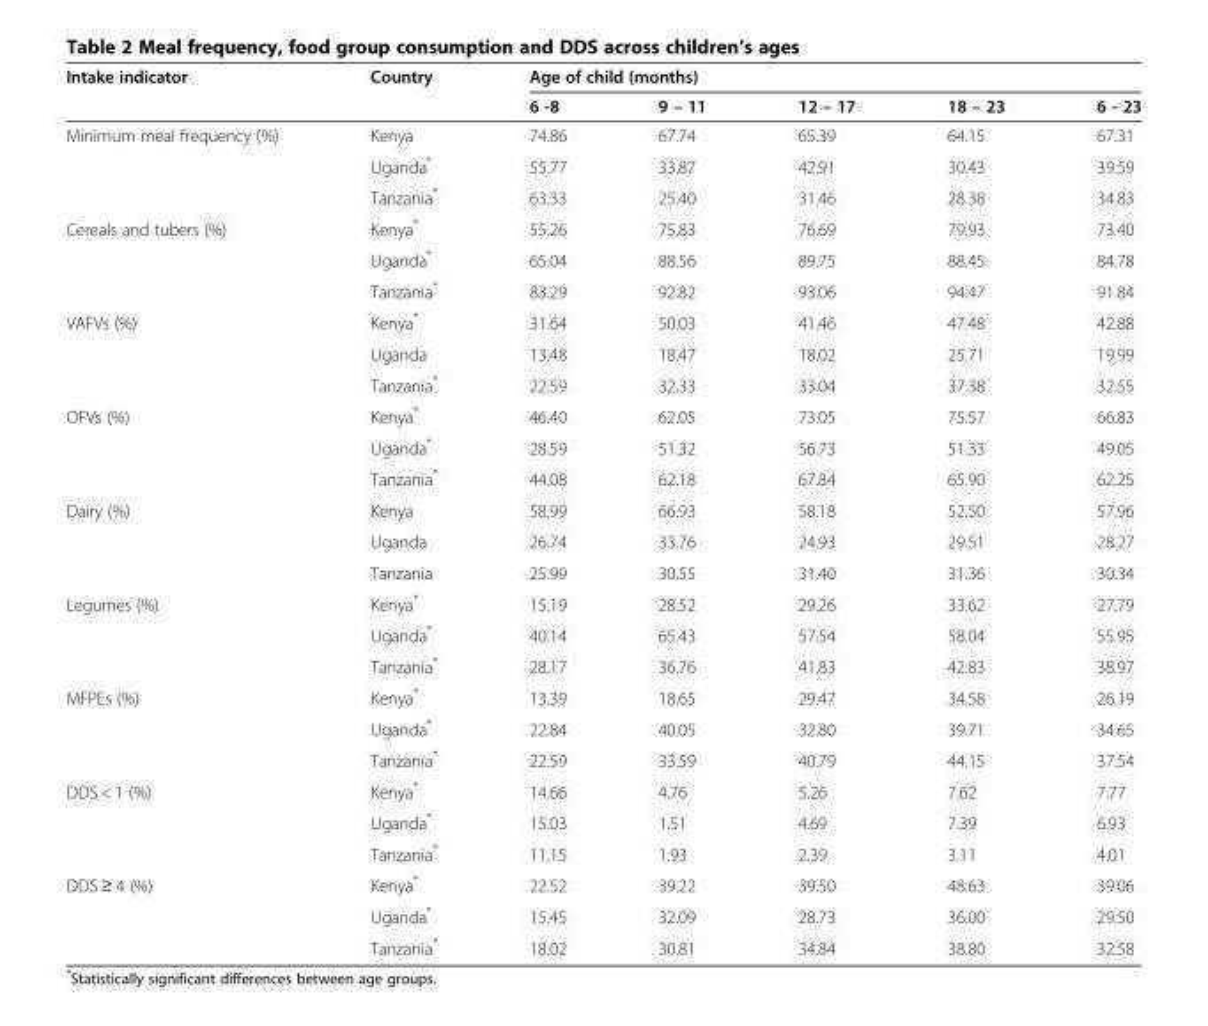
<table><thead><tr><td rowspan="2">Intake indicator</td><td rowspan="2">Country</td><td colspan="5">Age of child (months)</td></tr><tr><td>6 -8</td><td>9 – 11</td><td>12 – 17</td><td>18 – 23</td><td>6 - 23</td></tr></thead><tbody><tr><td rowspan="3">Minimum meal frequency (%)</td><td>Kenya</td><td>74.86</td><td>67.74</td><td>65.39</td><td>64.15</td><td>67.31</td></tr><tr><td>Uganda*</td><td>55.77</td><td>33.87</td><td>42.91</td><td>30.43</td><td>39.59</td></tr><tr><td>Tanzania*</td><td>63.33</td><td>25.40</td><td>31.46</td><td>28.38</td><td>34.83</td></tr><tr><td rowspan="3">Cereals and tubers (%)</td><td>Kenya*</td><td>55.26</td><td>75.83</td><td>76.69</td><td>79.93</td><td>73.40</td></tr><tr><td>Uganda*</td><td>65.04</td><td>88.56</td><td>89.75</td><td>88.45</td><td>84.78</td></tr><tr><td>Tanzania*</td><td>83.29</td><td>92.82</td><td>93.06</td><td>94.47</td><td>91.84</td></tr><tr><td rowspan="3">VAFVs (%)</td><td>Kenya*</td><td>31.64</td><td>50.03</td><td>41.46</td><td>47.48</td><td>42.88</td></tr><tr><td>Uganda</td><td>13.48</td><td>18.47</td><td>18.02</td><td>25.71</td><td>19.99</td></tr><tr><td>Tanzania*</td><td>22.59</td><td>32.33</td><td>33.04</td><td>37.38</td><td>32.55</td></tr><tr><td rowspan="3">OFVs (%)</td><td>Kenya*</td><td>46.40</td><td>62.05</td><td>73.05</td><td>75.57</td><td>66.83</td></tr><tr><td>Uganda*</td><td>28.59</td><td>51.32</td><td>56.73</td><td>51.33</td><td>49.05</td></tr><tr><td>Tanzania*</td><td>44.08</td><td>62.18</td><td>67.84</td><td>65.90</td><td>62.25</td></tr><tr><td rowspan="3">Dairy (%)</td><td>Kenya</td><td>58.99</td><td>66.93</td><td>58.18</td><td>52.50</td><td>57.96</td></tr><tr><td>Uganda</td><td>26.74</td><td>33.76</td><td>24.93</td><td>29.51</td><td>28.27</td></tr><tr><td>Tanzania</td><td>25.99</td><td>30.55</td><td>31.40</td><td>31.36</td><td>30.34</td></tr><tr><td rowspan="3">Legumes (%)</td><td>Kenya*</td><td>15.19</td><td>28.52</td><td>29.26</td><td>33.62</td><td>27.79</td></tr><tr><td>Uganda*</td><td>40.14</td><td>65.43</td><td>57.54</td><td>58.04</td><td>55.95</td></tr><tr><td>Tanzania*</td><td>28.17</td><td>36.76</td><td>41.83</td><td>42.83</td><td>38.97</td></tr><tr><td rowspan="3">MFPEs (%)</td><td>Kenya*</td><td>13.39</td><td>18.65</td><td>29.47</td><td>34.58</td><td>26.19</td></tr><tr><td>Uganda*</td><td>22.84</td><td>40.05</td><td>32.80</td><td>39.71</td><td>34.65</td></tr><tr><td>Tanzania*</td><td>22.59</td><td>33.59</td><td>40.79</td><td>44.15</td><td>37.54</td></tr><tr><td rowspan="3">DDS &lt; 1 (%)</td><td>Kenya*</td><td>14.66</td><td>4.76</td><td>5.26</td><td>7.62</td><td>7.77</td></tr><tr><td>Uganda*</td><td>15.03</td><td>1.51</td><td>4.69</td><td>7.39</td><td>6.93</td></tr><tr><td>Tanzania*</td><td>11.15</td><td>1.93</td><td>2.39</td><td>3.11</td><td>4.01</td></tr><tr><td rowspan="3">DDS ≥ 4 (%)</td><td>Kenya*</td><td>22.52</td><td>39.22</td><td>39.50</td><td>48.63</td><td>39.06</td></tr><tr><td>Uganda*</td><td>15.45</td><td>32.09</td><td>28.73</td><td>36.00</td><td>29.50</td></tr><tr><td>Tanzania*</td><td>18.02</td><td>30.81</td><td>34.84</td><td>38.80</td><td>32.58</td></tr></tbody></table>